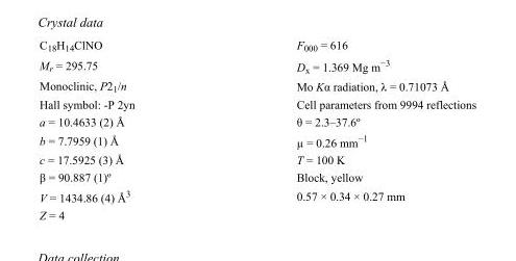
<table><tbody><tr><td>C<sub>18</sub>H<sub>14</sub>ClNO</td><td>F000 = 616</td></tr><tr><td>M<sub>r</sub> = 295.75</td><td>D<sub>x</sub> = 1.369 Mg m<sup>−3</sup></td></tr><tr><td>Monoclinic, P2<sub>1</sub>/n</td><td>Mo Kα radiation, λ = 0.71073 Å</td></tr><tr><td>Hall symbol: -P 2yn</td><td>Cell parameters from 9994 reflections</td></tr><tr><td>a = 10.4633 (2) Å</td><td>θ = 2.3–37.6º</td></tr><tr><td>b = 7.7959 (1) Å</td><td>µ = 0.26 mm<sup>−1</sup></td></tr><tr><td>c = 17.5925 (3) Å</td><td>T = 100 K</td></tr><tr><td>β = 90.887 (1)º</td><td>Block, yellow</td></tr><tr><td>V = 1434.86 (4) Å<sup>3</sup></td><td>0.57 × 0.34 × 0.27 mm</td></tr><tr><td>Z = 4</td><td></td></tr></tbody></table>